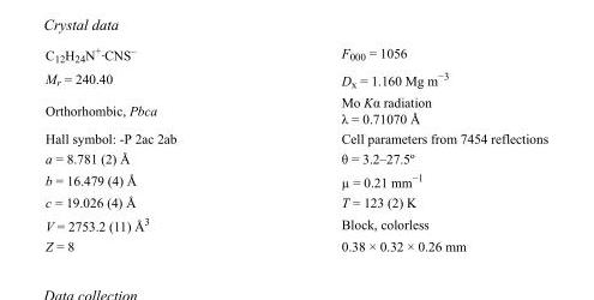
<table><tbody><tr><td>C<sub>12</sub>H<sub>24</sub>N<sup>+</sup>·CNS<sup>–</sup></td><td>F<sub>000</sub> = 1056</td></tr><tr><td>M<sub>r</sub> = 240.40</td><td>D<sub>x</sub> = 1.160 Mg m<sup>−3</sup></td></tr><tr><td>Orthorhombic, Pbca</td><td>Mo Kα radiation λ = 0.71070 Å</td></tr><tr><td>Hall symbol: -P 2ac 2ab</td><td>Cell parameters from 7454 reflections</td></tr><tr><td>a = 8.781 (2) Å</td><td>θ = 3.2–27.5º</td></tr><tr><td>b = 16.479 (4) Å</td><td>µ = 0.21 mm<sup>−1</sup></td></tr><tr><td>c = 19.026 (4) Å</td><td>T = 123 (2) K</td></tr><tr><td>V = 2753.2 (11) Å<sup>3</sup></td><td>Block, colorless</td></tr><tr><td>Z = 8</td><td>0.38 × 0.32 × 0.26 mm</td></tr></tbody></table>